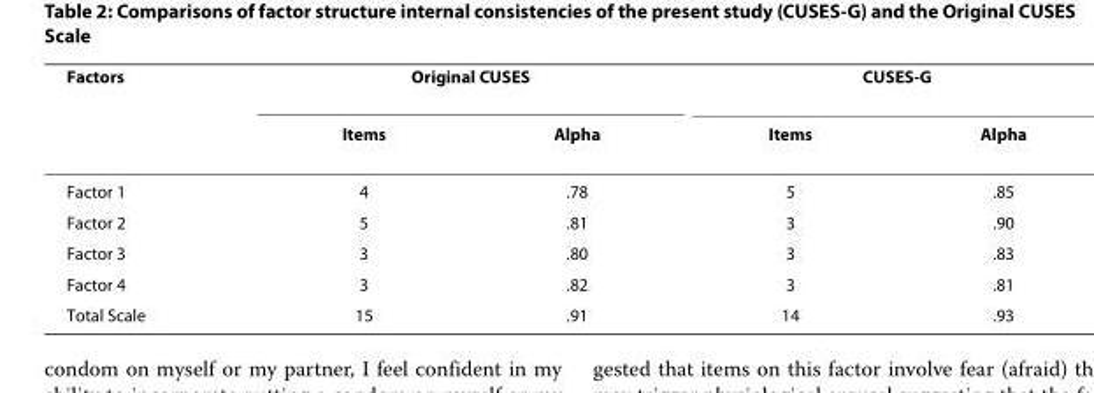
<table><thead><tr><td rowspan="2">Factors</td><td colspan="2">Original CUSES</td><td colspan="2">CUSES-G</td></tr><tr><td>Items</td><td>Alpha</td><td>Items</td><td>Alpha</td></tr></thead><tbody><tr><td>Factor 1</td><td>4</td><td>.78</td><td>5</td><td>.85</td></tr><tr><td>Factor 2</td><td>5</td><td>.81</td><td>3</td><td>.90</td></tr><tr><td>Factor 3</td><td>3</td><td>.80</td><td>3</td><td>.83</td></tr><tr><td>Factor 4</td><td>3</td><td>.82</td><td>3</td><td>.81</td></tr><tr><td>Total Scale</td><td>15</td><td>.91</td><td>14</td><td>.93</td></tr></tbody></table>